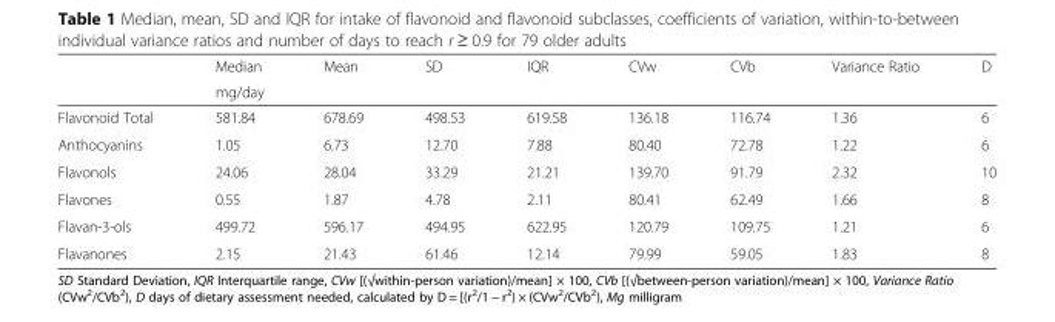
<table><thead><tr><td rowspan="2"></td><td>Median</td><td>Mean</td><td>SD</td><td>IQR</td><td rowspan="2">CVw</td><td rowspan="2">CVb</td><td rowspan="2">Variance Ratio</td><td rowspan="2">D</td></tr><tr><td colspan="4">mg/day</td></tr></thead><tbody><tr><td>Flavonoid Total</td><td>581.84</td><td>678.69</td><td>498.53</td><td>619.58</td><td>136.18</td><td>116.74</td><td>1.36</td><td>6</td></tr><tr><td>Anthocyanins</td><td>1.05</td><td>6.73</td><td>12.70</td><td>7.88</td><td>80.40</td><td>72.78</td><td>1.22</td><td>6</td></tr><tr><td>Flavonols</td><td>24.06</td><td>28.04</td><td>33.29</td><td>21.21</td><td>139.70</td><td>91.79</td><td>2.32</td><td>10</td></tr><tr><td>Flavones</td><td>0.55</td><td>1.87</td><td>4.78</td><td>2.11</td><td>80.41</td><td>62.49</td><td>1.66</td><td>8</td></tr><tr><td>Flavan-3-ols</td><td>499.72</td><td>596.17</td><td>494.95</td><td>622.95</td><td>120.79</td><td>109.75</td><td>1.21</td><td>6</td></tr><tr><td>Flavanones</td><td>2.15</td><td>21.43</td><td>61.46</td><td>12.14</td><td>79.99</td><td>59.05</td><td>1.83</td><td>8</td></tr></tbody></table>